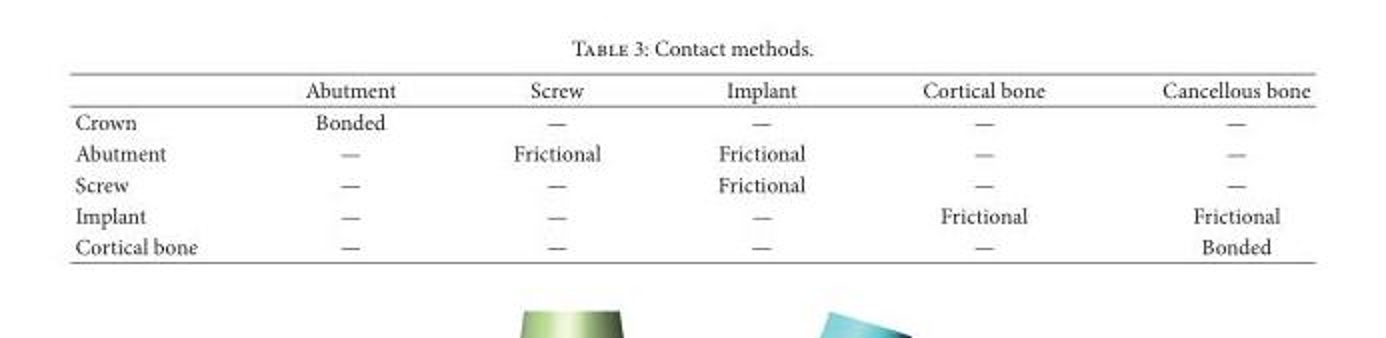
<table><thead><tr><td></td><td>Abutment</td><td>Screw</td><td>Implant</td><td>Cortical bone</td><td>Cancellous bone</td></tr></thead><tbody><tr><td>Crown</td><td>Bonded</td><td>—</td><td>—</td><td>—</td><td>—</td></tr><tr><td>Abutment</td><td>—</td><td>Frictional</td><td>Frictional</td><td>—</td><td>—</td></tr><tr><td>Screw</td><td>—</td><td>—</td><td>Frictional</td><td>—</td><td>—</td></tr><tr><td>Implant</td><td>—</td><td>—</td><td>—</td><td>Frictional</td><td>Frictional</td></tr><tr><td>Cortical bone</td><td>—</td><td>—</td><td>—</td><td>—</td><td>Bonded</td></tr></tbody></table>